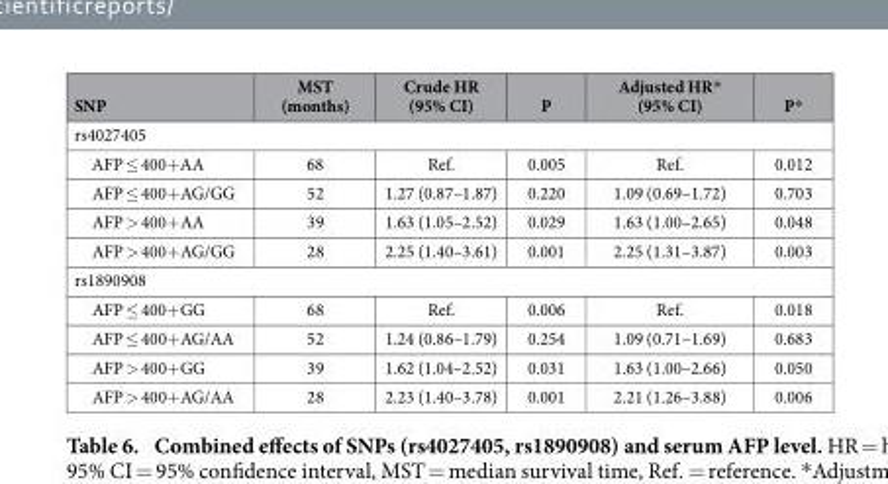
<table><thead><tr><td>SNP</td><td>MST (months)</td><td>Crude HR (95% CI)</td><td>P</td><td>Adjusted HR* (95% CI)</td><td>P*</td></tr></thead><tbody><tr><td colspan="6">rs4027405</td></tr><tr><td>AFP ≤ 400+ AA</td><td>68</td><td>Ref.</td><td>0.005</td><td>Ref.</td><td>0.012</td></tr><tr><td>AFP ≤ 400+ AG/GG</td><td>52</td><td>1.27 (0.87–1.87)</td><td>0.220</td><td>1.09 (0.69–1.72)</td><td>0.703</td></tr><tr><td>AFP &gt; 400+ AA</td><td>39</td><td>1.63 (1.05–2.52)</td><td>0.029</td><td>1.63 (1.00–2.65)</td><td>0.048</td></tr><tr><td>AFP &gt; 400+ AG/GG</td><td>28</td><td>2.25 (1.40–3.61)</td><td>0.001</td><td>2.25 (1.31–3.87)</td><td>0.003</td></tr><tr><td colspan="6">rs1890908</td></tr><tr><td>AFP ≤ 400+ GG</td><td>68</td><td>Ref.</td><td>0.006</td><td>Ref.</td><td>0.018</td></tr><tr><td>AFP ≤ 400+ AG/AA</td><td>52</td><td>1.24 (0.86–1.79)</td><td>0.254</td><td>1.09 (0.71–1.69)</td><td>0.683</td></tr><tr><td>AFP &gt; 400+ GG</td><td>39</td><td>1.62 (1.04–2.52)</td><td>0.031</td><td>1.63 (1.00–2.66)</td><td>0.050</td></tr><tr><td>AFP &gt; 400+ AG/AA</td><td>28</td><td>2.23 (1.40–3.78)</td><td>0.001</td><td>2.21 (1.26–3.88)</td><td>0.006</td></tr></tbody></table>